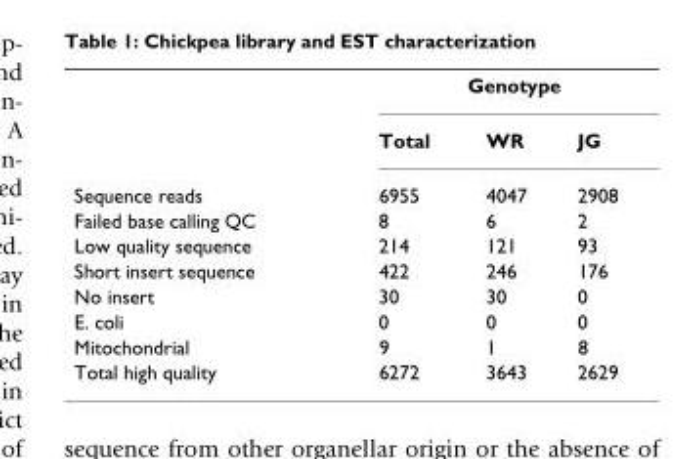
<table><thead><tr><td rowspan="2"></td><td colspan="3">Genotype</td></tr><tr><td>Total</td><td>WR</td><td>JG</td></tr></thead><tbody><tr><td>Sequence reads</td><td>6955</td><td>4047</td><td>2908</td></tr><tr><td>Failed base calling QC</td><td>8</td><td>6</td><td>2</td></tr><tr><td>Low quality sequence</td><td>214</td><td>121</td><td>93</td></tr><tr><td>Short insert sequence</td><td>422</td><td>246</td><td>176</td></tr><tr><td>No insert</td><td>30</td><td>30</td><td>0</td></tr><tr><td>E. coli</td><td>0</td><td>0</td><td>0</td></tr><tr><td>Mitochondrial</td><td>9</td><td>1</td><td>8</td></tr><tr><td>Total high quality</td><td>6272</td><td>3643</td><td>2629</td></tr></tbody></table>